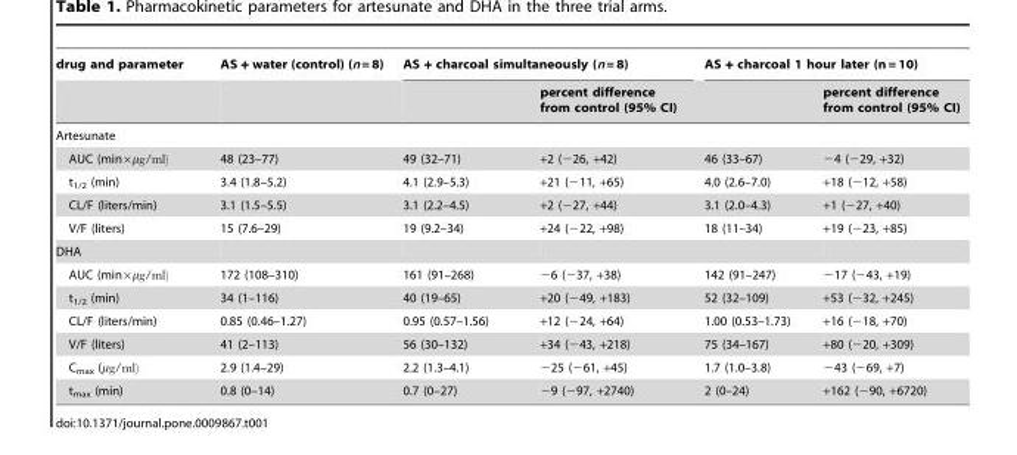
<table><thead><tr><td rowspan="2">drug and parameter</td><td rowspan="2">AS + water (control) (n = 8)</td><td colspan="2">AS + charcoal simultaneously (n = 8)</td><td colspan="2">AS + charcoal 1 hour later (n = 10)</td></tr><tr><td></td><td>percent difference from control (95% CI)</td><td></td><td>percent difference from control (95% CI)</td></tr></thead><tbody><tr><td colspan="6">Artesunate</td></tr><tr><td>AUC (min×µg/ml)</td><td>48 (23–77)</td><td>49 (32–71)</td><td>+2 (−26, +42)</td><td>46 (33–67)</td><td>−4 (−29, +32)</td></tr><tr><td>t<sub>1/2</sub> (min)</td><td>3.4 (1.8–5.2)</td><td>4.1 (2.9–5.3)</td><td>+21 (−11, +65)</td><td>4.0 (2.6–7.0)</td><td>+18 (−12, +58)</td></tr><tr><td>CL/F (liters/min)</td><td>3.1 (1.5–5.5)</td><td>3.1 (2.2–4.5)</td><td>+2 (−27, +44)</td><td>3.1 (2.0–4.3)</td><td>+1 (−27, +40)</td></tr><tr><td>V/F (liters)</td><td>15 (7.6–29)</td><td>19 (9.2–34)</td><td>+24 (−22, +98)</td><td>18 (11–34)</td><td>+19 (−23, +85)</td></tr><tr><td colspan="6">DHA</td></tr><tr><td>AUC (min×µg/ml)</td><td>172 (108–310)</td><td>161 (91–268)</td><td>−6 (−37, +38)</td><td>142 (91–247)</td><td>−17 (−43, +19)</td></tr><tr><td>t<sub>1/2</sub> (min)</td><td>34 (1–116)</td><td>40 (19–65)</td><td>+20 (−49, +183)</td><td>52 (32–109)</td><td>+53 (−32, +245)</td></tr><tr><td>CL/F (liters/min)</td><td>0.85 (0.46–1.27)</td><td>0.95 (0.57–1.56)</td><td>+12 (−24, +64)</td><td>1.00 (0.53–1.73)</td><td>+16 (−18, +70)</td></tr><tr><td>V/F (liters)</td><td>41 (2–113)</td><td>56 (30–132)</td><td>+34 (−43, +218)</td><td>75 (34–167)</td><td>+80 (−20, +309)</td></tr><tr><td>C<sub>max</sub> (µg/ml)</td><td>2.9 (1.4–29)</td><td>2.2 (1.3–4.1)</td><td>−25 (−61, +45)</td><td>1.7 (1.0–3.8)</td><td>−43 (−69, +7)</td></tr><tr><td>t<sub>max</sub> (min)</td><td>0.8 (0–14)</td><td>0.7 (0–27)</td><td>−9 (−97, +2740)</td><td>2 (0–24)</td><td>+162 (−90, +6720)</td></tr></tbody></table>